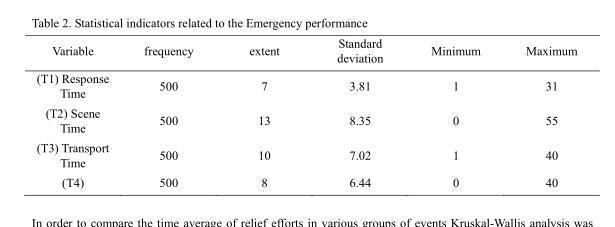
<table><thead><tr><td>Variable</td><td>frequency</td><td>extent</td><td>Standard deviation</td><td>Minimum</td><td>Maximum</td></tr></thead><tbody><tr><td>(T1) Response Time</td><td>500</td><td>7</td><td>3.81</td><td>1</td><td>31</td></tr><tr><td>(T2) Scene Time</td><td>500</td><td>13</td><td>8.35</td><td>0</td><td>55</td></tr><tr><td>(T3) Transport Time</td><td>500</td><td>10</td><td>7.02</td><td>1</td><td>40</td></tr><tr><td>(T4)</td><td>500</td><td>8</td><td>6.44</td><td>0</td><td>40</td></tr></tbody></table>